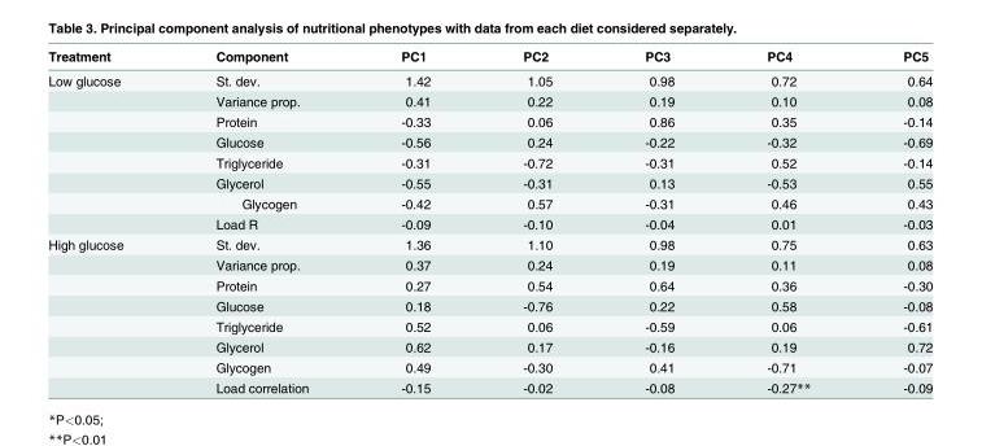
<table><thead><tr><td>Treatment</td><td>Component</td><td>PC1</td><td>PC2</td><td>PC3</td><td>PC4</td><td>PC5</td></tr></thead><tbody><tr><td rowspan="8">Low glucose</td><td>St. dev.</td><td>1.42</td><td>1.05</td><td>0.98</td><td>0.72</td><td>0.64</td></tr><tr><td>Variance prop.</td><td>0.41</td><td>0.22</td><td>0.19</td><td>0.10</td><td>0.08</td></tr><tr><td>Protein</td><td>-0.33</td><td>0.06</td><td>0.86</td><td>0.35</td><td>-0.14</td></tr><tr><td>Glucose</td><td>-0.56</td><td>0.24</td><td>-0.22</td><td>-0.32</td><td>-0.69</td></tr><tr><td>Triglyceride</td><td>-0.31</td><td>-0.72</td><td>-0.31</td><td>0.52</td><td>-0.14</td></tr><tr><td>Glycerol</td><td>-0.55</td><td>-0.31</td><td>0.13</td><td>-0.53</td><td>0.55</td></tr><tr><td>Glycogen</td><td>-0.42</td><td>0.57</td><td>-0.31</td><td>0.46</td><td>0.43</td></tr><tr><td>Load R</td><td>-0.09</td><td>-0.10</td><td>-0.04</td><td>0.01</td><td>-0.03</td></tr><tr><td rowspan="8">High glucose</td><td>St. dev.</td><td>1.36</td><td>1.10</td><td>0.98</td><td>0.75</td><td>0.63</td></tr><tr><td>Variance prop.</td><td>0.37</td><td>0.24</td><td>0.19</td><td>0.11</td><td>0.08</td></tr><tr><td>Protein</td><td>0.27</td><td>0.54</td><td>0.64</td><td>0.36</td><td>-0.30</td></tr><tr><td>Glucose</td><td>0.18</td><td>-0.76</td><td>0.22</td><td>0.58</td><td>-0.08</td></tr><tr><td>Triglyceride</td><td>0.52</td><td>0.06</td><td>-0.59</td><td>0.06</td><td>-0.61</td></tr><tr><td>Glycerol</td><td>0.62</td><td>0.17</td><td>-0.16</td><td>0.19</td><td>0.72</td></tr><tr><td>Glycogen</td><td>0.49</td><td>-0.30</td><td>0.41</td><td>-0.71</td><td>-0.07</td></tr><tr><td>Load correlation</td><td>-0.15</td><td>-0.02</td><td>-0.08</td><td>-0.27**</td><td>-0.09</td></tr></tbody></table>